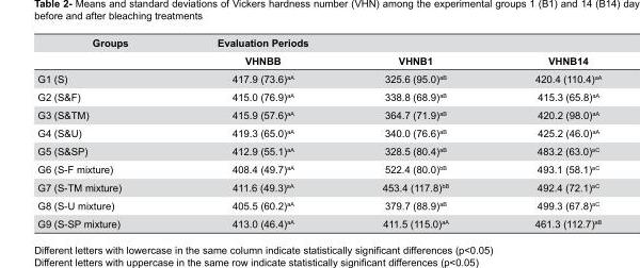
<table><thead><tr><td rowspan="2">Groups</td><td rowspan="2">Evaluation Periods VHNBB</td><td rowspan="2">VHNB1</td><td rowspan="2">VHNB14</td></tr><tr></tr></thead><tbody><tr><td>G1 (S)</td><td>417.9 (73.6)<sup>aA</sup></td><td>325.6 (95.0)<sup>aB</sup></td><td>420.4 (110.4)<sup>aA</sup></td></tr><tr><td>G2 (S&amp;F)</td><td>415.0 (76.9)<sup>aA</sup></td><td>338.8 (68.9)<sup>aB</sup></td><td>415.3 (65.8)<sup>aA</sup></td></tr><tr><td>G3 (S&amp;TM)</td><td>415.9 (57.6)<sup>aA</sup></td><td>364.7 (71.9)<sup>aB</sup></td><td>420.2 (98.0)<sup>aA</sup></td></tr><tr><td>G4 (S&amp;U)</td><td>419.3 (65.0)<sup>aA</sup></td><td>340.0 (76.6)<sup>aB</sup></td><td>425.2 (46.0)<sup>aA</sup></td></tr><tr><td>G5 (S&amp;SP)</td><td>412.9 (55.1)<sup>aA</sup></td><td>328.5 (80.4)<sup>aB</sup></td><td>483.2 (63.0)<sup>aC</sup></td></tr><tr><td>G6 (S-F mixture)</td><td>408.4 (49.7)<sup>aA</sup></td><td>522.4 (80.0)<sup>bB</sup></td><td>493.1 (58.1)<sup>aC</sup></td></tr><tr><td>G7 (S-TM mixture)</td><td>411.6 (49.3)<sup>aA</sup></td><td>453.4 (117.8)<sup>bB</sup></td><td>492.4 (72.1)<sup>aC</sup></td></tr><tr><td>G8 (S-U mixture)</td><td>405.5 (60.2)<sup>aA</sup></td><td>379.7 (88.9)<sup>aB</sup></td><td>499.3 (67.8)<sup>aC</sup></td></tr><tr><td>G9 (S-SP mixture)</td><td>413.0 (46.4)<sup>aA</sup></td><td>411.5 (115.0)<sup>aA</sup></td><td>461.3 (112.7)<sup>aB</sup></td></tr></tbody></table>